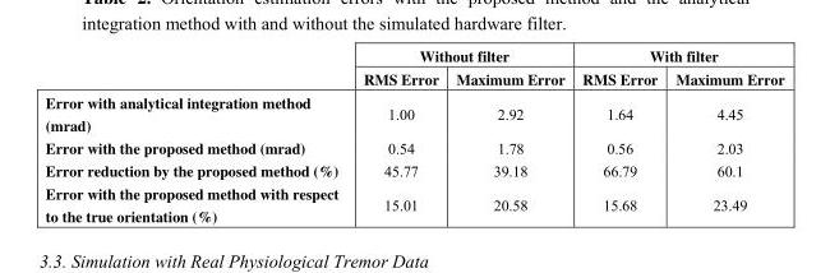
<table><thead><tr><td rowspan="2"></td><td colspan="2">Without filter</td><td colspan="2">With filter</td></tr><tr><td>RMS Error</td><td>Maximum Error</td><td>RMS Error</td><td>Maximum Error</td></tr></thead><tbody><tr><td>Error with analytical integration method (mrad)</td><td>1.00</td><td>2.92</td><td>1.64</td><td>4.45</td></tr><tr><td>Error with the proposed method (mrad)</td><td>0.54</td><td>1.78</td><td>0.56</td><td>2.03</td></tr><tr><td>Error reduction by the proposed method (%)</td><td>45.77</td><td>39.18</td><td>66.79</td><td>60.1</td></tr><tr><td>Error with the proposed method with respect to the true orientation (%)</td><td>15.01</td><td>20.58</td><td>15.68</td><td>23.49</td></tr></tbody></table>